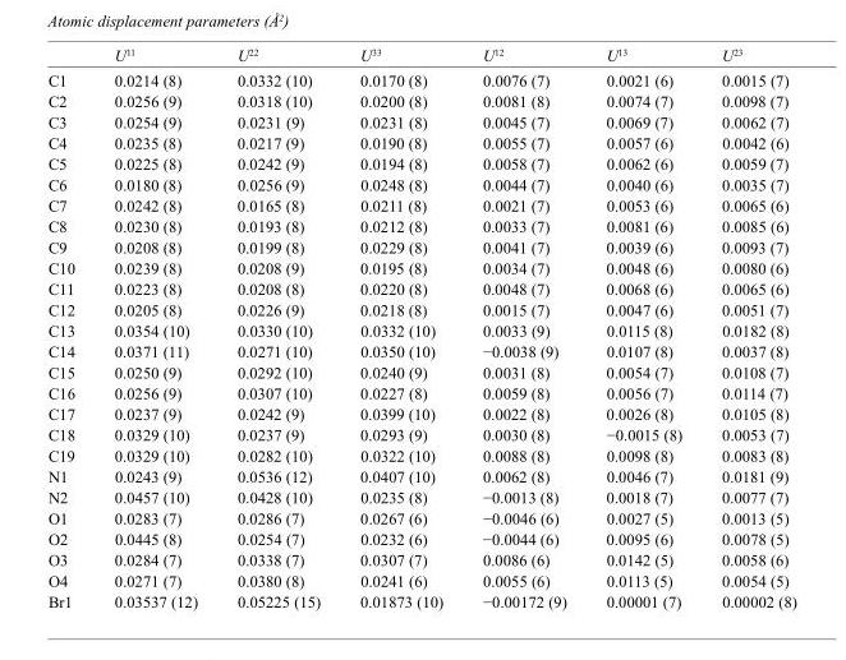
<table><thead><tr><td></td><td>U<sup>11</sup></td><td>U<sup>22</sup></td><td>U<sup>33</sup></td><td>U<sup>12</sup></td><td>U<sup>13</sup></td><td>U<sup>23</sup></td></tr></thead><tbody><tr><td>C1</td><td>0.0214 (8)</td><td>0.0332 (10)</td><td>0.0170 (8)</td><td>0.0076 (7)</td><td>0.0021 (6)</td><td>0.0015 (7)</td></tr><tr><td>C2</td><td>0.0256 (9)</td><td>0.0318 (10)</td><td>0.0200 (8)</td><td>0.0081 (8)</td><td>0.0074 (7)</td><td>0.0098 (7)</td></tr><tr><td>C3</td><td>0.0254 (9)</td><td>0.0231 (9)</td><td>0.0231 (8)</td><td>0.0045 (7)</td><td>0.0069 (7)</td><td>0.0062 (7)</td></tr><tr><td>C4</td><td>0.0235 (8)</td><td>0.0217 (9)</td><td>0.0190 (8)</td><td>0.0055 (7)</td><td>0.0057 (6)</td><td>0.0042 (6)</td></tr><tr><td>C5</td><td>0.0225 (8)</td><td>0.0242 (9)</td><td>0.0194 (8)</td><td>0.0058 (7)</td><td>0.0062 (6)</td><td>0.0059 (7)</td></tr><tr><td>C6</td><td>0.0180 (8)</td><td>0.0256 (9)</td><td>0.0248 (8)</td><td>0.0044 (7)</td><td>0.0040 (6)</td><td>0.0035 (7)</td></tr><tr><td>C7</td><td>0.0242 (8)</td><td>0.0165 (8)</td><td>0.0211 (8)</td><td>0.0021 (7)</td><td>0.0053 (6)</td><td>0.0065 (6)</td></tr><tr><td>C8</td><td>0.0230 (8)</td><td>0.0193 (8)</td><td>0.0212 (8)</td><td>0.0033 (7)</td><td>0.0081 (6)</td><td>0.0085 (6)</td></tr><tr><td>C9</td><td>0.0208 (8)</td><td>0.0199 (8)</td><td>0.0229 (8)</td><td>0.0041 (7)</td><td>0.0039 (6)</td><td>0.0093 (7)</td></tr><tr><td>C10</td><td>0.0239 (8)</td><td>0.0208 (9)</td><td>0.0195 (8)</td><td>0.0034 (7)</td><td>0.0048 (6)</td><td>0.0080 (6)</td></tr><tr><td>C11</td><td>0.0223 (8)</td><td>0.0208 (8)</td><td>0.0220 (8)</td><td>0.0048 (7)</td><td>0.0068 (6)</td><td>0.0065 (6)</td></tr><tr><td>C12</td><td>0.0205 (8)</td><td>0.0226 (9)</td><td>0.0218 (8)</td><td>0.0015 (7)</td><td>0.0047 (6)</td><td>0.0051 (7)</td></tr><tr><td>C13</td><td>0.0354 (10)</td><td>0.0330 (10)</td><td>0.0332 (10)</td><td>0.0033 (9)</td><td>0.0115 (8)</td><td>0.0182 (8)</td></tr><tr><td>C14</td><td>0.0371 (11)</td><td>0.0271 (10)</td><td>0.0350 (10)</td><td>−0.0038 (9)</td><td>0.0107 (8)</td><td>0.0037 (8)</td></tr><tr><td>C15</td><td>0.0250 (9)</td><td>0.0292 (10)</td><td>0.0240 (9)</td><td>0.0031 (8)</td><td>0.0054 (7)</td><td>0.0108 (7)</td></tr><tr><td>C16</td><td>0.0256 (9)</td><td>0.0307 (10)</td><td>0.0227 (8)</td><td>0.0059 (8)</td><td>0.0056 (7)</td><td>0.0114 (7)</td></tr><tr><td>C17</td><td>0.0237 (9)</td><td>0.0242 (9)</td><td>0.0399 (10)</td><td>0.0022 (8)</td><td>0.0026 (8)</td><td>0.0105 (8)</td></tr><tr><td>C18</td><td>0.0329 (10)</td><td>0.0237 (9)</td><td>0.0293 (9)</td><td>0.0030 (8)</td><td>−0.0015 (8)</td><td>0.0053 (7)</td></tr><tr><td>C19</td><td>0.0329 (10)</td><td>0.0282 (10)</td><td>0.0322 (10)</td><td>0.0088 (8)</td><td>0.0098 (8)</td><td>0.0083 (8)</td></tr><tr><td>N1</td><td>0.0243 (9)</td><td>0.0536 (12)</td><td>0.0407 (10)</td><td>0.0062 (8)</td><td>0.0046 (7)</td><td>0.0181 (9)</td></tr><tr><td>N2</td><td>0.0457 (10)</td><td>0.0428 (10)</td><td>0.0235 (8)</td><td>−0.0013 (8)</td><td>0.0018 (7)</td><td>0.0077 (7)</td></tr><tr><td>O1</td><td>0.0283 (7)</td><td>0.0286 (7)</td><td>0.0267 (6)</td><td>−0.0046 (6)</td><td>0.0027 (5)</td><td>0.0013 (5)</td></tr><tr><td>O2</td><td>0.0445 (8)</td><td>0.0254 (7)</td><td>0.0232 (6)</td><td>−0.0044 (6)</td><td>0.0095 (6)</td><td>0.0078 (5)</td></tr><tr><td>O3</td><td>0.0284 (7)</td><td>0.0338 (7)</td><td>0.0307 (7)</td><td>0.0086 (6)</td><td>0.0142 (5)</td><td>0.0058 (6)</td></tr><tr><td>O4</td><td>0.0271 (7)</td><td>0.0380 (8)</td><td>0.0241 (6)</td><td>0.0055 (6)</td><td>0.0113 (5)</td><td>0.0054 (5)</td></tr><tr><td>Br1</td><td>0.03537 (12)</td><td>0.05225 (15)</td><td>0.01873 (10)</td><td>−0.00172 (9)</td><td>0.00001 (7)</td><td>0.00002 (8)</td></tr></tbody></table>